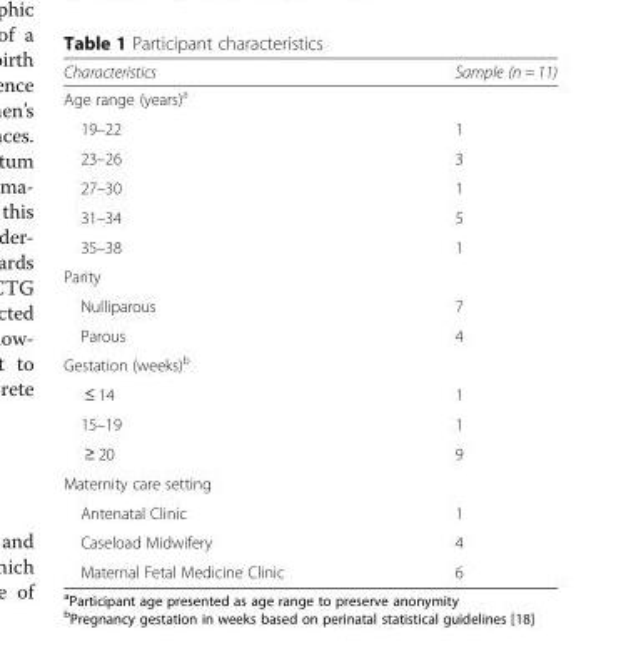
<table><thead><tr><td>Characteristics</td><td>Sample (n = 11)</td></tr></thead><tbody><tr><td colspan="2">Age range (years)<sup>a</sup></td></tr><tr><td>19–22</td><td>1</td></tr><tr><td>23–26</td><td>3</td></tr><tr><td>27–30</td><td>1</td></tr><tr><td>31–34</td><td>5</td></tr><tr><td>35–38</td><td>1</td></tr><tr><td colspan="2">Parity</td></tr><tr><td>Nulliparous</td><td>7</td></tr><tr><td>Parous</td><td>4</td></tr><tr><td colspan="2">Gestation (weeks)<sup>b</sup></td></tr><tr><td>≤ 14</td><td>1</td></tr><tr><td>15–19</td><td>1</td></tr><tr><td>≥ 20</td><td>9</td></tr><tr><td colspan="2">Maternity care setting</td></tr><tr><td>Antenatal Clinic</td><td>1</td></tr><tr><td>Caseload Midwifery</td><td>4</td></tr><tr><td>Maternal Fetal Medicine Clinic</td><td>6</td></tr></tbody></table>